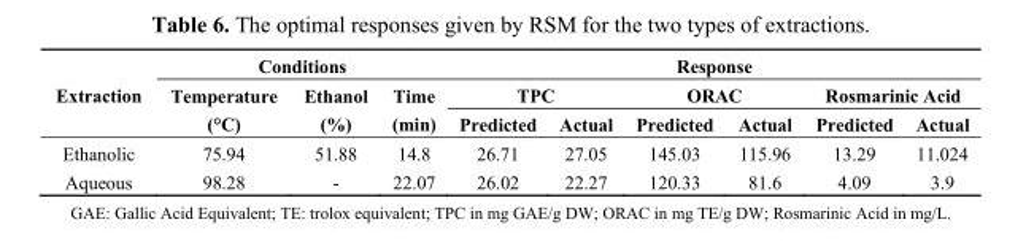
<table><thead><tr><td rowspan="3">Extraction</td><td colspan="3">Conditions</td><td colspan="6">Response</td></tr><tr><td rowspan="2">Temperature (°C)</td><td rowspan="2">Ethanol (%)</td><td rowspan="2">Time (min)</td><td colspan="2">TPC</td><td colspan="2">ORAC</td><td colspan="2">Rosmarinic Acid</td></tr><tr><td>Predicted</td><td>Actual</td><td>Predicted</td><td>Actual</td><td>Predicted</td><td>Actual</td></tr></thead><tbody><tr><td>Ethanolic</td><td>75.94</td><td>51.88</td><td>14.8</td><td>26.71</td><td>27.05</td><td>145.03</td><td>115.96</td><td>13.29</td><td>11.024</td></tr><tr><td>Aqueous</td><td>98.28</td><td>-</td><td>22.07</td><td>26.02</td><td>22.27</td><td>120.33</td><td>81.6</td><td>4.09</td><td>3.9</td></tr></tbody></table>